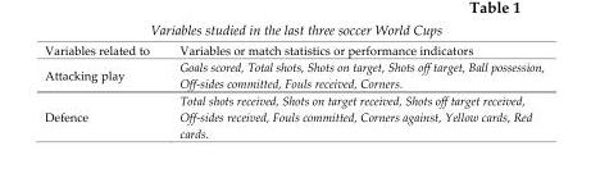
<table><thead><tr><td>Variables related to</td><td>Variables or match statistics or performance indicators</td></tr></thead><tbody><tr><td>Attacking play</td><td>Goals scored, Total shots, Shots on target, Shots off target, Ball possession, Off-sides committed, Fouls received, Corners.</td></tr><tr><td>Defence</td><td>Total shots received, Shots on target received, Shots off target received, Off-sides received, Fouls committed, Corners against, Yellow cards, Red cards.</td></tr></tbody></table>